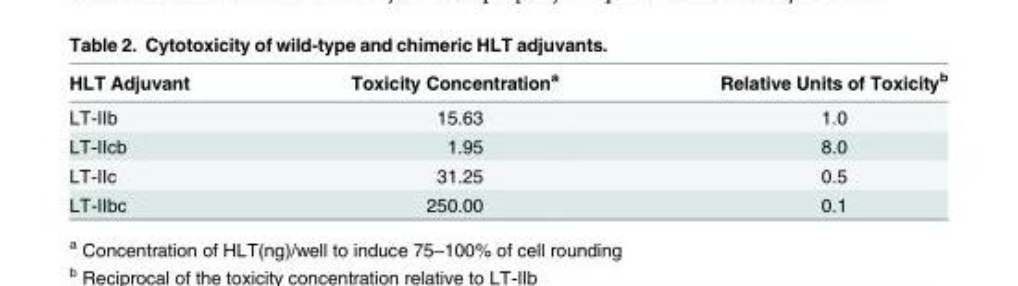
<table><thead><tr><td>HLT Adjuvant</td><td>Toxicity Concentration<sup>a</sup></td><td>Relative Units of Toxicity<sup>b</sup></td></tr></thead><tbody><tr><td>LT-IIb</td><td>15.63</td><td>1.0</td></tr><tr><td>LT-IIcb</td><td>1.95</td><td>8.0</td></tr><tr><td>LT-IIc</td><td>31.25</td><td>0.5</td></tr><tr><td>LT-IIbc</td><td>250.00</td><td>0.1</td></tr></tbody></table>